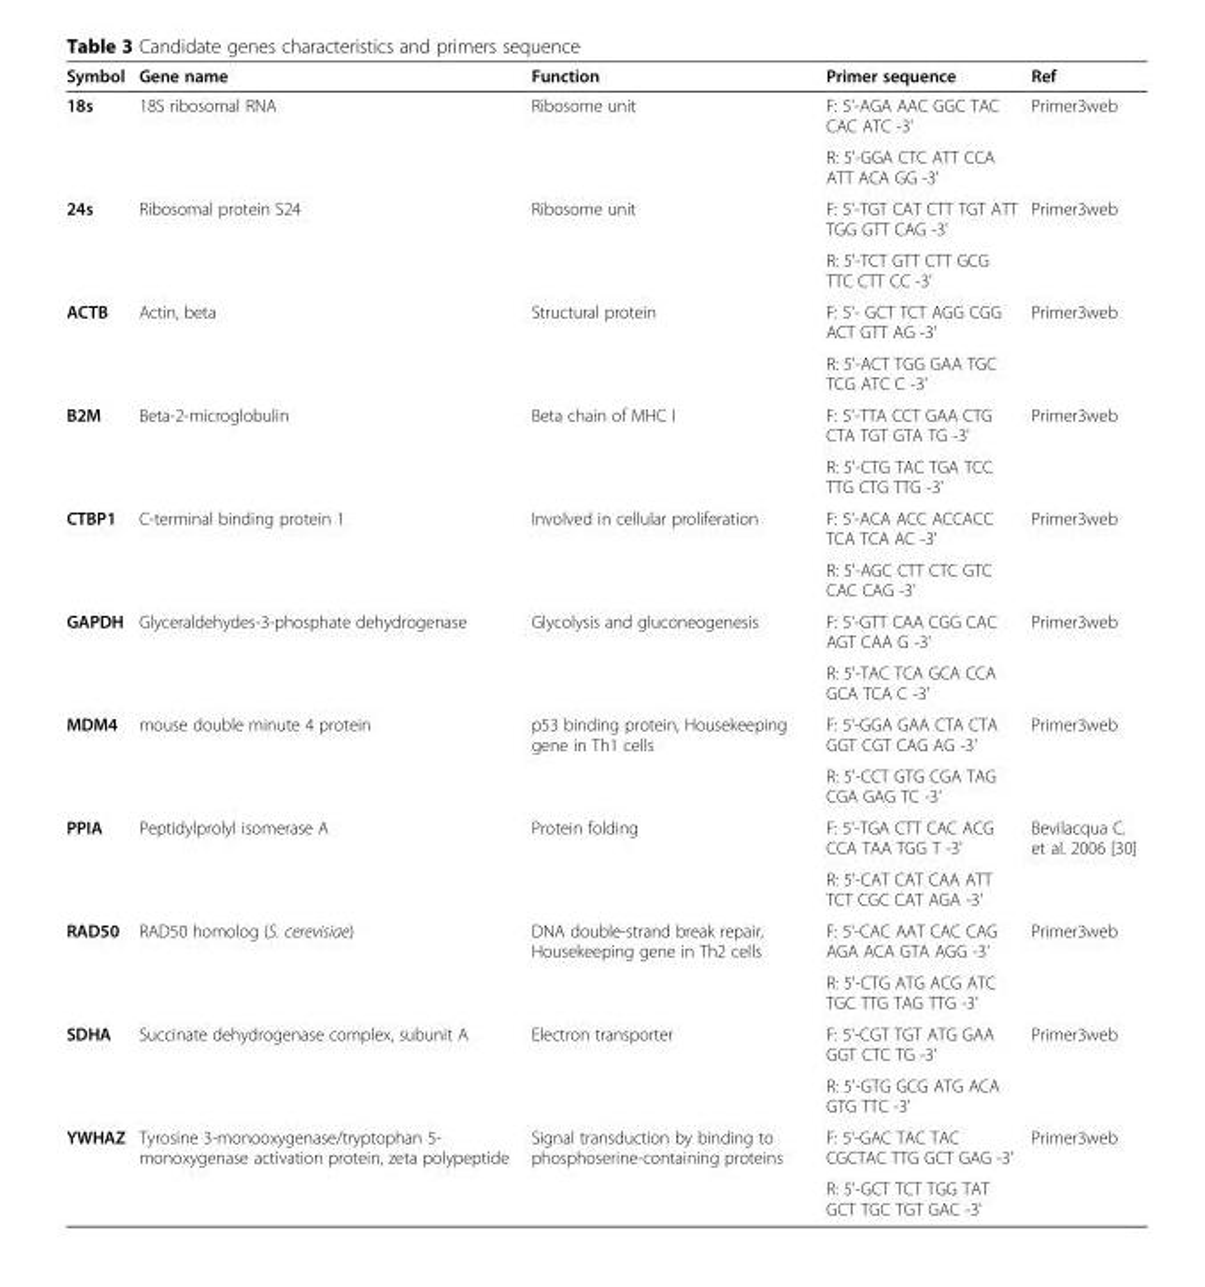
<table><thead><tr><td>Symbol</td><td>Gene name</td><td>Function</td><td>Primer sequence</td><td>Ref</td></tr></thead><tbody><tr><td rowspan="2">18s</td><td rowspan="2">18S ribosomal RNA</td><td rowspan="2">Ribosome unit</td><td>F: 5&#x27;-AGA AAC GGC TAC CAC ATC -3&#x27;</td><td rowspan="2">Primer3web</td></tr><tr><td>R: 5&#x27;-GGA CTC ATT CCA ATT ACA GG -3&#x27;</td></tr><tr><td rowspan="2">24s</td><td rowspan="2">Ribosomal protein S24</td><td rowspan="2">Ribosome unit</td><td>F: 5&#x27;-TGT CAT CTT TGT ATT TGG GTT CAG -3&#x27;</td><td rowspan="2">Primer3web</td></tr><tr><td>R: 5&#x27;-TCT GTT CTT GCG TTC CTT CC -3&#x27;</td></tr><tr><td rowspan="2">ACTB</td><td rowspan="2">Actin, beta</td><td rowspan="2">Structural protein</td><td>F: 5&#x27;- GCT TCT AGG CGG ACT GTT AG -3&#x27;</td><td rowspan="2">Primer3web</td></tr><tr><td>R: 5&#x27;-ACT TGG GAA TGC TCG ATC C -3&#x27;</td></tr><tr><td rowspan="2">Β2M</td><td rowspan="2">Beta-2-microglobulin</td><td rowspan="2">Beta chain of MHC I</td><td>F: 5&#x27;-TTA CCT GAA CTG CTA TGT GTA TG -3&#x27;</td><td rowspan="2">Primer3web</td></tr><tr><td>R: 5&#x27;-CTG TAC TGA TCC TTG CTG TTG -3&#x27;</td></tr><tr><td rowspan="2">CTBP1</td><td rowspan="2">C-terminal binding protein 1</td><td rowspan="2">Involved in cellular proliferation</td><td>F: 5&#x27;-ACA ACC ACCACC TCA TCA AC -3&#x27;</td><td rowspan="2">Primer3web</td></tr><tr><td>R: 5&#x27;-AGC CTT CTC GTC CAC CAG -3&#x27;</td></tr><tr><td rowspan="2">GAPDH</td><td rowspan="2">Glyceraldehydes-3-phosphate dehydrogenase</td><td rowspan="2">Glycolysis and gluconeogenesis</td><td>F: 5&#x27;-GTT CAA CGG CAC AGT CAA G -3&#x27;</td><td rowspan="2">Primer3web</td></tr><tr><td>R: 5&#x27;-TAC TCA GCA CCA GCA TCA C -3&#x27;</td></tr><tr><td rowspan="2">MDM4</td><td rowspan="2">mouse double minute 4 protein</td><td rowspan="2">p53 binding protein, Housekeeping gene in Th1 cells</td><td>F: 5&#x27;-GGA GAA CTA CTA GGT CGT CAG AG -3&#x27;</td><td rowspan="2">Primer3web</td></tr><tr><td>R: 5&#x27;-CCT GTG CGA TAG CGA GAG TC -3&#x27;</td></tr><tr><td rowspan="2">PPIA</td><td rowspan="2">Peptidylprolyl isomerase A</td><td rowspan="2">Protein folding</td><td>F: 5&#x27;-TGA CTT CAC ACG CCA TAA TGG T -3&#x27;</td><td rowspan="2">Bevilacqua C. et al. 2006 [30]</td></tr><tr><td>R: 5&#x27;-CAT CAT CAA ATT TCT CGC CAT AGA -3&#x27;</td></tr><tr><td rowspan="2">RAD50</td><td rowspan="2">RAD50 homolog (S. cerevisiae)</td><td rowspan="2">DNA double-strand break repair, Housekeeping gene in Th2 cells</td><td>F: 5&#x27;-CAC AAT CAC CAG AGA ACA GTA AGG -3&#x27;</td><td rowspan="2">Primer3web</td></tr><tr><td>R: 5&#x27;-CTG ATG ACG ATC TGC TTG TAG TTG -3&#x27;</td></tr><tr><td rowspan="2">SDHA</td><td rowspan="2">Succinate dehydrogenase complex, subunit A</td><td rowspan="2">Electron transporter</td><td>F: 5&#x27;-CGT TGT ATG GAA GGT CTC TG -3&#x27;</td><td rowspan="2">Primer3web</td></tr><tr><td>R: 5&#x27;-GTG GCG ATG ACA GTG TTC -3&#x27;</td></tr><tr><td rowspan="2">YWHAZ</td><td rowspan="2">Tyrosine 3-monooxygenase/tryptophan 5- monoxygenase activation protein, zeta polypeptide</td><td rowspan="2">Signal transduction by binding to phosphoserine-containing proteins</td><td>F: 5&#x27;-GAC TAC TAC CGCTAC TTG GCT GAG -3&#x27;</td><td rowspan="2">Primer3web</td></tr><tr><td>R: 5&#x27;-GCT TCT TGG TAT GCT TGC TGT GAC -3&#x27;</td></tr></tbody></table>